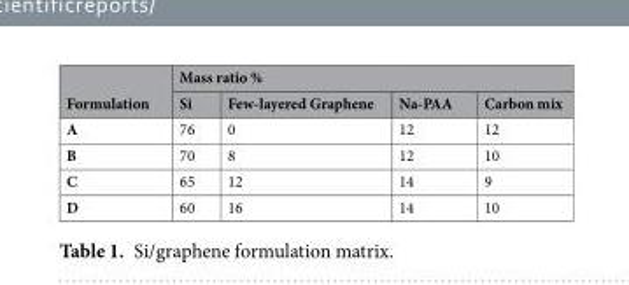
<table><thead><tr><td rowspan="2">Formulation</td><td colspan="4">Mass ratio %</td></tr><tr><td>Si</td><td>Few-layered Graphene</td><td>Na-PAA</td><td>Carbon mix</td></tr></thead><tbody><tr><td>A</td><td>76</td><td>0</td><td>12</td><td>12</td></tr><tr><td>B</td><td>70</td><td>8</td><td>12</td><td>10</td></tr><tr><td>C</td><td>65</td><td>12</td><td>14</td><td>9</td></tr><tr><td>D</td><td>60</td><td>16</td><td>14</td><td>10</td></tr></tbody></table>